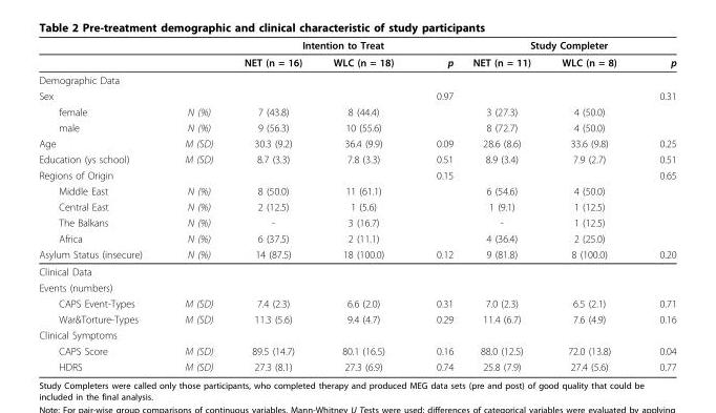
<table><thead><tr><td rowspan="2"></td><td rowspan="2"></td><td colspan="3">Intention to Treat</td><td colspan="3">Study Completer</td></tr><tr><td>NET (n = 16)</td><td>WLC (n = 18)</td><td>p</td><td>NET (n = 11)</td><td>WLC (n = 8)</td><td>p</td></tr></thead><tbody><tr><td colspan="8">Demographic Data</td></tr><tr><td>Sex</td><td></td><td></td><td></td><td>0.97</td><td></td><td></td><td>0.31</td></tr><tr><td>female</td><td>N (%)</td><td>7 (43.8)</td><td>8 (44.4)</td><td></td><td>3 (27.3)</td><td>4 (50.0)</td><td></td></tr><tr><td>male</td><td>N (%)</td><td>9 (56.3)</td><td>10 (55.6)</td><td></td><td>8 (72.7)</td><td>4 (50.0)</td><td></td></tr><tr><td>Age</td><td>M (SD)</td><td>30.3 (9.2)</td><td>36.4 (9.9)</td><td>0.09</td><td>28.6 (8.6)</td><td>33.6 (9.8)</td><td>0.25</td></tr><tr><td>Education (ys school)</td><td>M (SD)</td><td>8.7 (3.3)</td><td>7.8 (3.3)</td><td>0.51</td><td>8.9 (3.4)</td><td>7.9 (2.7)</td><td>0.51</td></tr><tr><td>Regions of Origin</td><td></td><td></td><td></td><td>0.15</td><td></td><td></td><td>0.65</td></tr><tr><td>Middle East</td><td>N (%)</td><td>8 (50.0)</td><td>11 (61.1)</td><td></td><td>6 (54.6)</td><td>4 (50.0)</td><td></td></tr><tr><td>Central East</td><td>N (%)</td><td>2 (12.5)</td><td>1 (5.6)</td><td></td><td>1 (9.1)</td><td>1 (12.5)</td><td></td></tr><tr><td>The Balkans</td><td>N (%)</td><td>-</td><td>3 (16.7)</td><td></td><td>-</td><td>1 (12.5)</td><td></td></tr><tr><td>Africa</td><td>N (%)</td><td>6 (37.5)</td><td>2 (11.1)</td><td></td><td>4 (36.4)</td><td>2 (25.0)</td><td></td></tr><tr><td>Asylum Status (insecure)</td><td>N (%)</td><td>14 (87.5)</td><td>18 (100.0)</td><td>0.12</td><td>9 (81.8)</td><td>8 (100.0)</td><td>0.20</td></tr><tr><td colspan="8">Clinical Data</td></tr><tr><td colspan="8">Events (numbers)</td></tr><tr><td>CAPS Event-Types</td><td>M (SD)</td><td>7.4 (2.3)</td><td>6.6 (2.0)</td><td>0.31</td><td>7.0 (2.3)</td><td>6.5 (2.1)</td><td>0.71</td></tr><tr><td>War&amp;Torture-Types</td><td>M (SD)</td><td>11.3 (5.6)</td><td>9.4 (4.7)</td><td>0.29</td><td>11.4 (6.7)</td><td>7.6 (4.9)</td><td>0.16</td></tr><tr><td colspan="8">Clinical Symptoms</td></tr><tr><td>CAPS Score</td><td>M (SD)</td><td>89.5 (14.7)</td><td>80.1 (16.5)</td><td>0.16</td><td>88.0 (12.5)</td><td>72.0 (13.8)</td><td>0.04</td></tr><tr><td>HDRS</td><td>M (SD)</td><td>27.3 (8.1)</td><td>27.3 (6.9)</td><td>0.74</td><td>25.8 (7.9)</td><td>27.4 (5.6)</td><td>0.77</td></tr></tbody></table>